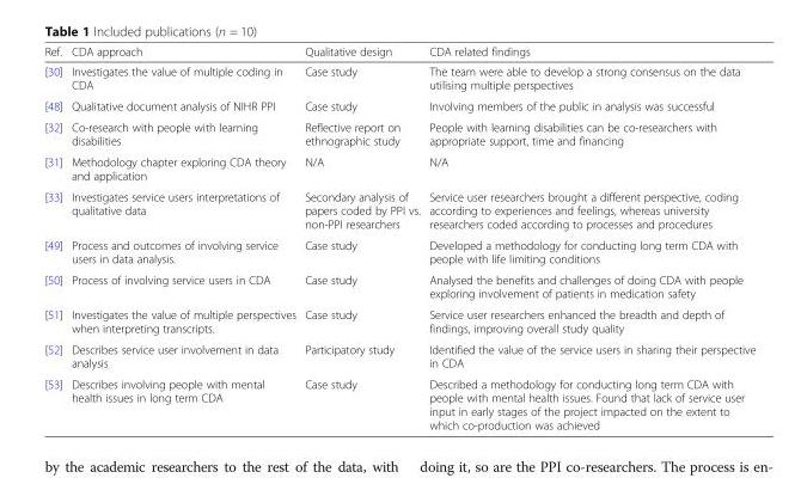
<table><thead><tr><td>Ref.</td><td>CDA approach</td><td>Qualitative design</td><td>CDA related findings</td></tr></thead><tbody><tr><td>[30]</td><td>Investigates the value of multiple coding in CDA</td><td>Case study</td><td>The team were able to develop a strong consensus on the data utilising multiple perspectives</td></tr><tr><td>[48]</td><td>Qualitative document analysis of NIHR PPI</td><td>Case study</td><td>Involving members of the public in analysis was successful</td></tr><tr><td>[32]</td><td>Co-research with people with learning disabilities</td><td>Reflective report on ethnographic study</td><td>People with learning disabilities can be co-researchers with appropriate support, time and financing</td></tr><tr><td>[31]</td><td>Methodology chapter exploring CDA theory and application</td><td>N/A</td><td>N/A</td></tr><tr><td>[33]</td><td>Investigates service users interpretations of qualitative data</td><td>Secondary analysis of papers coded by PPI vs. non-PPI researchers</td><td>Service user researchers brought a different perspective, coding according to experiences and feelings, whereas university researchers coded according to processes and procedures</td></tr><tr><td>[49]</td><td>Process and outcomes of involving service users in data analysis.</td><td>Case study</td><td>Developed a methodology for conducting long term CDA with people with life limiting conditions</td></tr><tr><td>[50]</td><td>Process of involving service users in CDA</td><td>Case study</td><td>Analysed the benefits and challenges of doing CDA with people exploring involvement of patients in medication safety</td></tr><tr><td>[51]</td><td>Investigates the value of multiple perspectives when interpreting transcripts.</td><td>Case study</td><td>Service user researchers enhanced the breadth and depth of findings, improving overall study quality</td></tr><tr><td>[52]</td><td>Describes service user involvement in data analysis</td><td>Participatory study</td><td>Identified the value of the service users in sharing their perspective in CDA</td></tr><tr><td>[53]</td><td>Describes involving people with mental health issues in long term CDA</td><td>Case study</td><td>Described a methodology for conducting long term CDA with people with mental health issues. Found that lack of service user input in early stages of the project impacted on the extent to which co-production was achieved</td></tr></tbody></table>